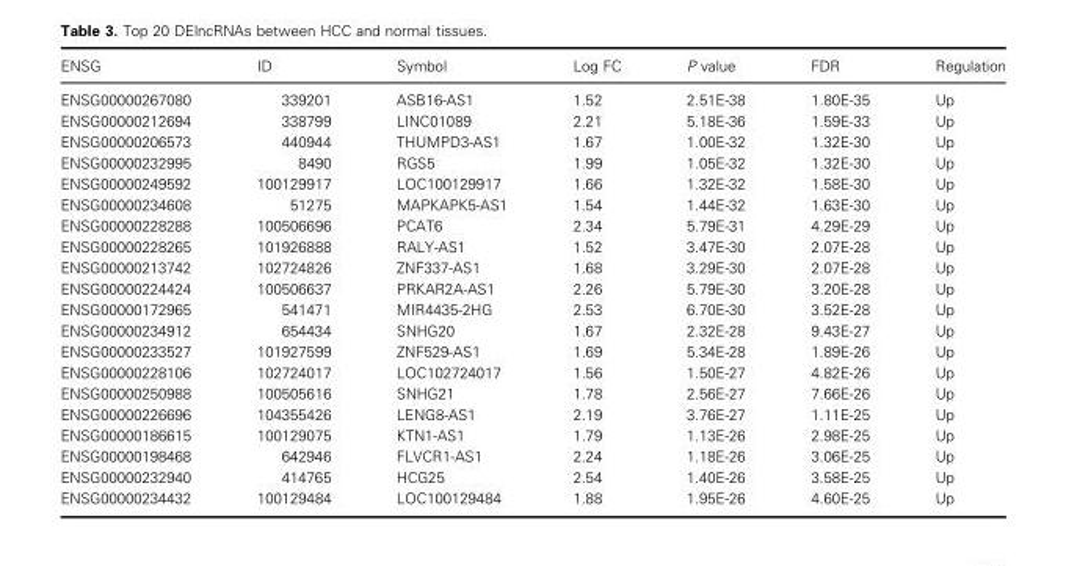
<table><thead><tr><td>ENSG</td><td>ID</td><td>Symbol</td><td>Log FC</td><td>P value</td><td>FDR</td><td>Regulation</td></tr></thead><tbody><tr><td>ENSG00000267080</td><td>339201</td><td>ASB16-AS1</td><td>1.52</td><td>2.51E-38</td><td>1.80E-35</td><td>Up</td></tr><tr><td>ENSG00000212694</td><td>338799</td><td>LINC01089</td><td>2.21</td><td>5.18E-36</td><td>1.59E-33</td><td>Up</td></tr><tr><td>ENSG00000206573</td><td>440944</td><td>THUMPD3-AS1</td><td>1.67</td><td>1.00E-32</td><td>1.32E-30</td><td>Up</td></tr><tr><td>ENSG00000232995</td><td>8490</td><td>RGS5</td><td>1.99</td><td>1.05E-32</td><td>1.32E-30</td><td>Up</td></tr><tr><td>ENSG00000249592</td><td>100129917</td><td>LOC100129917</td><td>1.66</td><td>1.32E-32</td><td>1.58E-30</td><td>Up</td></tr><tr><td>ENSG00000234608</td><td>51275</td><td>MAPKAPK5-AS1</td><td>1.54</td><td>1.44E-32</td><td>1.63E-30</td><td>Up</td></tr><tr><td>ENSG00000228288</td><td>100506696</td><td>PCAT6</td><td>2.34</td><td>5.79E-31</td><td>4.29E-29</td><td>Up</td></tr><tr><td>ENSG00000228265</td><td>101926888</td><td>RALY-AS1</td><td>1.52</td><td>3.47E-30</td><td>2.07E-28</td><td>Up</td></tr><tr><td>ENSG00000213742</td><td>102724826</td><td>ZNF337-AS1</td><td>1.68</td><td>3.29E-30</td><td>2.07E-28</td><td>Up</td></tr><tr><td>ENSG00000224424</td><td>100506637</td><td>PRKAR2A-AS1</td><td>2.26</td><td>5.79E-30</td><td>3.20E-28</td><td>Up</td></tr><tr><td>ENSG00000172965</td><td>541471</td><td>MIR4435-2HG</td><td>2.53</td><td>6.70E-30</td><td>3.52E-28</td><td>Up</td></tr><tr><td>ENSG00000234912</td><td>654434</td><td>SNHG20</td><td>1.67</td><td>2.32E-28</td><td>9.43E-27</td><td>Up</td></tr><tr><td>ENSG00000233527</td><td>101927599</td><td>ZNF529-AS1</td><td>1.69</td><td>5.34E-28</td><td>1.89E-26</td><td>Up</td></tr><tr><td>ENSG00000228106</td><td>102724017</td><td>LOC102724017</td><td>1.56</td><td>1.50E-27</td><td>4.82E-26</td><td>Up</td></tr><tr><td>ENSG00000250988</td><td>100505616</td><td>SNHG21</td><td>1.78</td><td>2.56E-27</td><td>7.66E-26</td><td>Up</td></tr><tr><td>ENSG00000226696</td><td>104355426</td><td>LENG8-AS1</td><td>2.19</td><td>3.76E-27</td><td>1.11E-25</td><td>Up</td></tr><tr><td>ENSG00000186615</td><td>100129075</td><td>KTN1-AS1</td><td>1.79</td><td>1.13E-26</td><td>2.98E-25</td><td>Up</td></tr><tr><td>ENSG00000198468</td><td>642946</td><td>FLVCR1-AS1</td><td>2.24</td><td>1.18E-26</td><td>3.06E-25</td><td>Up</td></tr><tr><td>ENSG00000232940</td><td>414765</td><td>HCG25</td><td>2.54</td><td>1.40E-26</td><td>3.58E-25</td><td>Up</td></tr><tr><td>ENSG00000234432</td><td>100129484</td><td>LOC100129484</td><td>1.88</td><td>1.95E-26</td><td>4.60E-25</td><td>Up</td></tr></tbody></table>